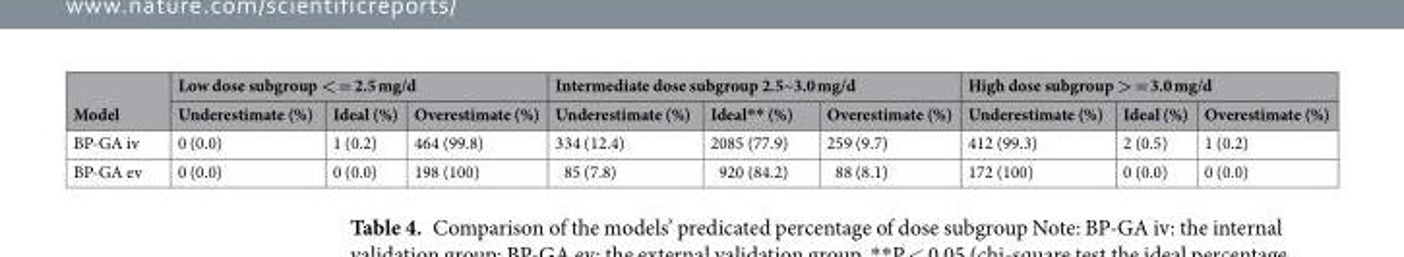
<table><thead><tr><td rowspan="2">Model</td><td colspan="3">Low dose subgroup &lt; = 2.5 mg/d</td><td colspan="3">Intermediate dose subgroup 2.5~3.0 mg/d</td><td colspan="3">High dose subgroup &gt; = 3.0 mg/d</td></tr><tr><td>Underestimate (%)</td><td>Ideal (%)</td><td>Overestimate (%)</td><td>Underestimate (%)</td><td>Ideal** (%)</td><td>Overestimate (%)</td><td>Underestimate (%)</td><td>Ideal (%)</td><td>Overestimate (%)</td></tr></thead><tbody><tr><td>BP-GA iv</td><td>0 (0.0)</td><td>1 (0.2)</td><td>464 (99.8)</td><td>334 (12.4)</td><td>2085 (77.9)</td><td>259 (9.7)</td><td>412 (99.3)</td><td>2 (0.5)</td><td>1 (0.2)</td></tr><tr><td>BP-GA ev</td><td>0 (0.0)</td><td>0 (0.0)</td><td>198 (100)</td><td>85 (7.8)</td><td>920 (84.2)</td><td>88 (8.1)</td><td>172 (100)</td><td>0 (0.0)</td><td>0 (0.0)</td></tr></tbody></table>